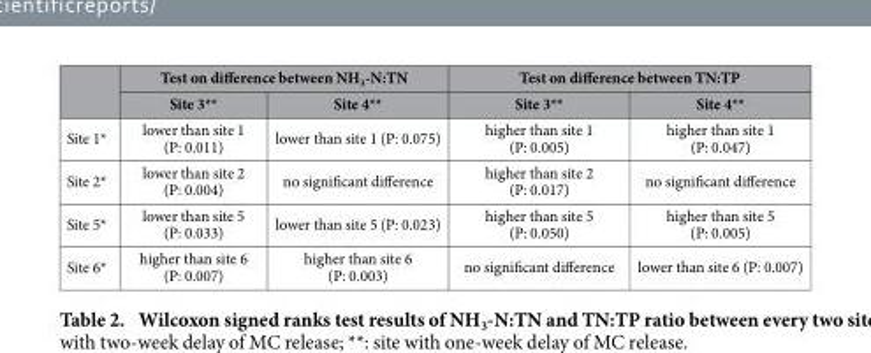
<table><thead><tr><td rowspan="2"></td><td colspan="2">Test on difference between NH<sub>3</sub>-N:TN</td><td colspan="2">Test on difference between TN:TP</td></tr><tr><td>Site 3**</td><td>Site 4**</td><td>Site 3**</td><td>Site 4**</td></tr></thead><tbody><tr><td>Site 1*</td><td>lower than site 1 (P: 0.011)</td><td>lower than site 1 (P: 0.075)</td><td>higher than site 1 (P: 0.005)</td><td>higher than site 1 (P: 0.047)</td></tr><tr><td>Site 2*</td><td>lower than site 2 (P: 0.004)</td><td>no significant difference</td><td>higher than site 2 (P: 0.017)</td><td>no significant difference</td></tr><tr><td>Site 5*</td><td>lower than site 5 (P: 0.033)</td><td>lower than site 5 (P: 0.023)</td><td>higher than site 5 (P: 0.050)</td><td>higher than site 5 (P: 0.005)</td></tr><tr><td>Site 6*</td><td>higher than site 6 (P: 0.007)</td><td>higher than site 6 (P: 0.003)</td><td>no significant difference</td><td>lower than site 6 (P: 0.007)</td></tr></tbody></table>